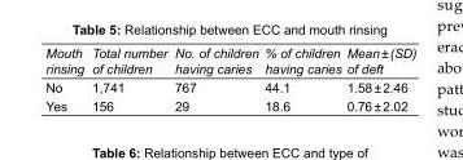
<table><tbody><tr><td>Mouth rinsing</td><td>Total number of children</td><td>No. of children having caries</td><td>% of children having caries</td><td>Mean ± (SD) of deft</td></tr><tr><td>No</td><td>1,741</td><td>767</td><td>44.1</td><td>1.58 ± 2.46</td></tr><tr><td>Yes</td><td>156</td><td>29</td><td>18.6</td><td>0.76 ± 2.02</td></tr></tbody></table>